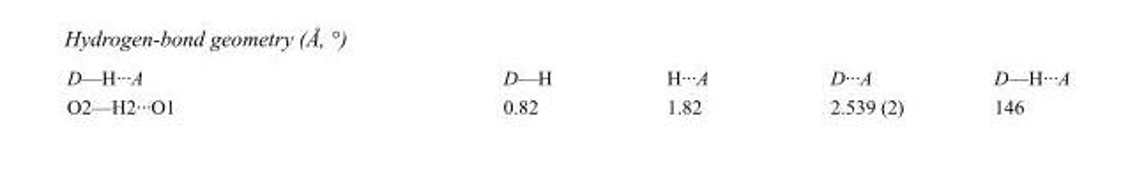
<table><tbody><tr><td>D—H···A</td><td>D—H</td><td>H···A</td><td>D···A</td><td>D—H···A</td></tr><tr><td>O2—H2···O1</td><td>0.82</td><td>1.82</td><td>2.539 (2)</td><td>146</td></tr></tbody></table>